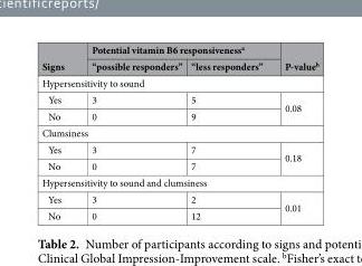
<table><thead><tr><td rowspan="2">Signs</td><td colspan="2">Potential vitamin B6 responsiveness<sup>a</sup></td><td rowspan="2">P-value<sup>b</sup></td></tr><tr><td>“possible responders”</td><td>“less responders”</td></tr></thead><tbody><tr><td colspan="4">Hypersensitivity to sound</td></tr><tr><td>Yes</td><td>3</td><td>5</td><td rowspan="2">0.08</td></tr><tr><td>No</td><td>0</td><td>9</td></tr><tr><td colspan="4">Clumsiness</td></tr><tr><td>Yes</td><td>3</td><td>7</td><td rowspan="2">0.18</td></tr><tr><td>No</td><td>0</td><td>7</td></tr><tr><td colspan="4">Hypersensitivity to sound and clumsiness</td></tr><tr><td>Yes</td><td>3</td><td>2</td><td rowspan="2">0.01</td></tr><tr><td>No</td><td>0</td><td>12</td></tr></tbody></table>